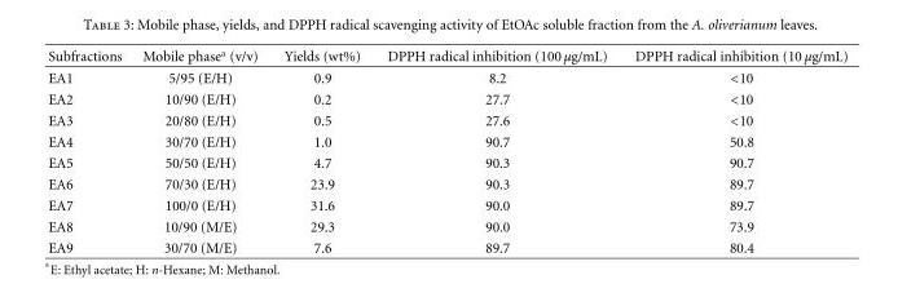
<table><thead><tr><td>Subfractions</td><td>Mobile phase<sup>a</sup> (v/v)</td><td>Yields (wt%)</td><td>DPPH radical inhibition (100 μg/mL)</td><td>DPPH radical inhibition (10 μg/mL)</td></tr></thead><tbody><tr><td>EA1</td><td>5/95 (E/H)</td><td>0.9</td><td>8.2</td><td>&lt;10</td></tr><tr><td>EA2</td><td>10/90 (E/H)</td><td>0.2</td><td>27.7</td><td>&lt;10</td></tr><tr><td>EA3</td><td>20/80 (E/H)</td><td>0.5</td><td>27.6</td><td>&lt;10</td></tr><tr><td>EA4</td><td>30/70 (E/H)</td><td>1.0</td><td>90.7</td><td>50.8</td></tr><tr><td>EA5</td><td>50/50 (E/H)</td><td>4.7</td><td>90.3</td><td>90.7</td></tr><tr><td>EA6</td><td>70/30 (E/H)</td><td>23.9</td><td>90.3</td><td>89.7</td></tr><tr><td>EA7</td><td>100/0 (E/H)</td><td>31.6</td><td>90.0</td><td>89.7</td></tr><tr><td>EA8</td><td>10/90 (M/E)</td><td>29.3</td><td>90.0</td><td>73.9</td></tr><tr><td>EA9</td><td>30/70 (M/E)</td><td>7.6</td><td>89.7</td><td>80.4</td></tr></tbody></table>